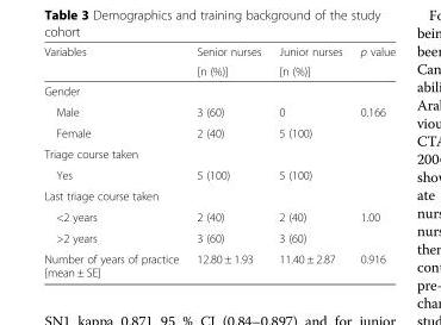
<table><thead><tr><td rowspan="2">Variables</td><td rowspan="2">Senior nurses [n (%)]</td><td rowspan="2">Junior nurses [n (%)]</td><td rowspan="2">p value</td></tr><tr></tr></thead><tbody><tr><td colspan="4">Gender</td></tr><tr><td>Male</td><td>3 (60)</td><td>0</td><td rowspan="2">0.166</td></tr><tr><td>Female</td><td>2 (40)</td><td>5 (100)</td></tr><tr><td colspan="4">Triage course taken</td></tr><tr><td>Yes</td><td>5 (100)</td><td>5 (100)</td><td></td></tr><tr><td colspan="4">Last triage course taken</td></tr><tr><td>&lt;2 years</td><td>2 (40)</td><td>2 (40)</td><td rowspan="2">1.00</td></tr><tr><td>&gt;2 years</td><td>3 (60)</td><td>3 (60)</td></tr><tr><td>Number of years of practice [mean ± SE]</td><td>12.80 ± 1.93</td><td>11.40 ± 2.87</td><td>0.916</td></tr></tbody></table>